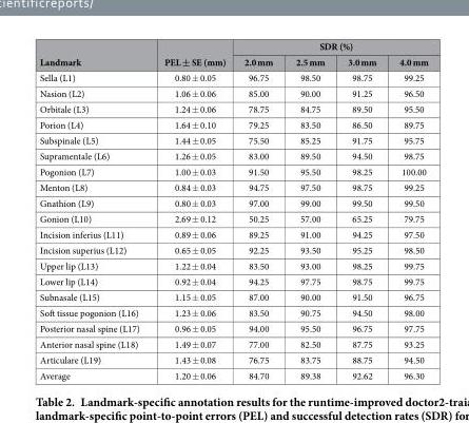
<table><thead><tr><td rowspan="2">Landmark</td><td rowspan="2">PEL ± SE (mm)</td><td colspan="4">SDR (%)</td></tr><tr><td>2.0 mm</td><td>2.5 mm</td><td>3.0 mm</td><td>4.0 mm</td></tr></thead><tbody><tr><td>Sella (L1)</td><td>0.80 ± 0.05</td><td>96.75</td><td>98.50</td><td>98.75</td><td>99.25</td></tr><tr><td>Nasion (L2)</td><td>1.06 ± 0.06</td><td>85.00</td><td>90.00</td><td>91.25</td><td>96.50</td></tr><tr><td>Orbitale (L3)</td><td>1.24 ± 0.06</td><td>78.75</td><td>84.75</td><td>89.50</td><td>95.50</td></tr><tr><td>Porion (L4)</td><td>1.64 ± 0.10</td><td>79.25</td><td>83.50</td><td>86.50</td><td>89.75</td></tr><tr><td>Subspinale (L5)</td><td>1.44 ± 0.05</td><td>75.50</td><td>85.25</td><td>91.75</td><td>95.75</td></tr><tr><td>Supramentale (L6)</td><td>1.26 ± 0.05</td><td>83.00</td><td>89.50</td><td>94.50</td><td>98.75</td></tr><tr><td>Pogonion (L7)</td><td>1.00 ± 0.03</td><td>91.50</td><td>95.50</td><td>98.25</td><td>100.00</td></tr><tr><td>Menton (L8)</td><td>0.84 ± 0.03</td><td>94.75</td><td>97.50</td><td>98.75</td><td>99.25</td></tr><tr><td>Gnathion (L9)</td><td>0.80 ± 0.03</td><td>97.00</td><td>99.00</td><td>99.50</td><td>99.50</td></tr><tr><td>Gonion (L10)</td><td>2.69 ± 0.12</td><td>50.25</td><td>57.00</td><td>65.25</td><td>79.75</td></tr><tr><td>Incision inferius (L11)</td><td>0.89 ± 0.06</td><td>89.25</td><td>91.00</td><td>94.25</td><td>97.50</td></tr><tr><td>Incision superius (L12)</td><td>0.65 ± 0.05</td><td>92.25</td><td>93.50</td><td>95.25</td><td>98.50</td></tr><tr><td>Upper lip (L13)</td><td>1.22 ± 0.04</td><td>83.50</td><td>93.00</td><td>98.25</td><td>99.75</td></tr><tr><td>Lower lip (L14)</td><td>0.92 ± 0.04</td><td>94.25</td><td>97.75</td><td>98.75</td><td>99.75</td></tr><tr><td>Subnasale (L15)</td><td>1.15 ± 0.05</td><td>87.00</td><td>90.00</td><td>91.50</td><td>96.75</td></tr><tr><td>Soft tissue pogonion (L16)</td><td>1.23 ± 0.06</td><td>83.50</td><td>90.75</td><td>94.50</td><td>98.00</td></tr><tr><td>Posterior nasal spine (L17)</td><td>0.96 ± 0.05</td><td>94.00</td><td>95.50</td><td>96.75</td><td>97.75</td></tr><tr><td>Anterior nasal spine (L18)</td><td>1.49 ± 0.07</td><td>77.00</td><td>82.50</td><td>87.75</td><td>93.25</td></tr><tr><td>Articulare (L19)</td><td>1.43 ± 0.08</td><td>76.75</td><td>83.75</td><td>88.75</td><td>94.50</td></tr><tr><td>Average</td><td>1.20 ± 0.06</td><td>84.70</td><td>89.38</td><td>92.62</td><td>96.30</td></tr></tbody></table>